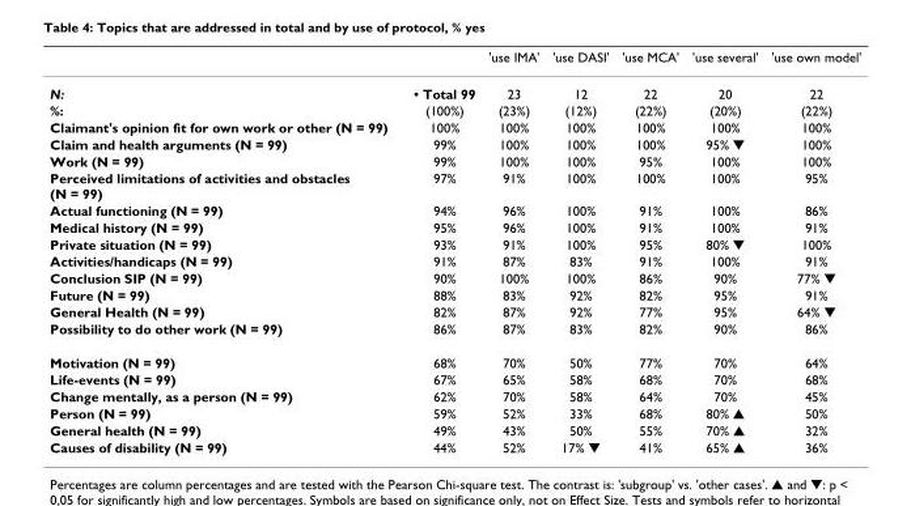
<table><thead><tr><td></td><td></td><td>&#x27;use IMA&#x27;</td><td>&#x27;use DASI&#x27;</td><td>&#x27;use MCA&#x27;</td><td>&#x27;use several&#x27;</td><td>&#x27;use own model&#x27;</td></tr></thead><tbody><tr><td>N:</td><td>• Total 99</td><td>23</td><td>12</td><td>22</td><td>20</td><td>22</td></tr><tr><td>%:</td><td>(100%)</td><td>(23%)</td><td>(12%)</td><td>(22%)</td><td>(20%)</td><td>(22%)</td></tr><tr><td>Claimant&#x27;s opinion fit for own work or other (N = 99)</td><td>100%</td><td>100%</td><td>100%</td><td>100%</td><td>100%</td><td>100%</td></tr><tr><td>Claim and health arguments (N = 99)</td><td>99%</td><td>100%</td><td>100%</td><td>100%</td><td>95% ▼</td><td>100%</td></tr><tr><td>Work (N = 99)</td><td>99%</td><td>100%</td><td>100%</td><td>95%</td><td>100%</td><td>100%</td></tr><tr><td>Perceived limitations of activities and obstacles (N = 99)</td><td>97%</td><td>91%</td><td>100%</td><td>100%</td><td>100%</td><td>95%</td></tr><tr><td>Actual functioning (N = 99)</td><td>94%</td><td>96%</td><td>100%</td><td>91%</td><td>100%</td><td>86%</td></tr><tr><td>Medical history (N = 99)</td><td>95%</td><td>96%</td><td>100%</td><td>91%</td><td>100%</td><td>91%</td></tr><tr><td>Private situation (N = 99)</td><td>93%</td><td>91%</td><td>100%</td><td>95%</td><td>80% ▼</td><td>100%</td></tr><tr><td>Activities/handicaps (N = 99)</td><td>91%</td><td>87%</td><td>83%</td><td>91%</td><td>100%</td><td>91%</td></tr><tr><td>Conclusion SIP (N = 99)</td><td>90%</td><td>100%</td><td>100%</td><td>86%</td><td>90%</td><td>77% ▼</td></tr><tr><td>Future (N = 99)</td><td>88%</td><td>83%</td><td>92%</td><td>82%</td><td>95%</td><td>91%</td></tr><tr><td>General Health (N = 99)</td><td>82%</td><td>87%</td><td>92%</td><td>77%</td><td>95%</td><td>64% ▼</td></tr><tr><td>Possibility to do other work (N = 99)</td><td>86%</td><td>87%</td><td>83%</td><td>82%</td><td>90%</td><td>86%</td></tr><tr><td>Motivation (N = 99)</td><td>68%</td><td>70%</td><td>50%</td><td>77%</td><td>70%</td><td>64%</td></tr><tr><td>Life-events (N = 99)</td><td>67%</td><td>65%</td><td>58%</td><td>68%</td><td>70%</td><td>68%</td></tr><tr><td>Change mentally, as a person (N = 99)</td><td>62%</td><td>70%</td><td>58%</td><td>64%</td><td>70%</td><td>45%</td></tr><tr><td>Person (N = 99)</td><td>59%</td><td>52%</td><td>33%</td><td>68%</td><td>80% ▲</td><td>50%</td></tr><tr><td>General health (N = 99)</td><td>49%</td><td>43%</td><td>50%</td><td>55%</td><td>70% ▲</td><td>32%</td></tr><tr><td>Causes of disability (N = 99)</td><td>44%</td><td>52%</td><td>17% ▼</td><td>41%</td><td>65% ▲</td><td>36%</td></tr></tbody></table>